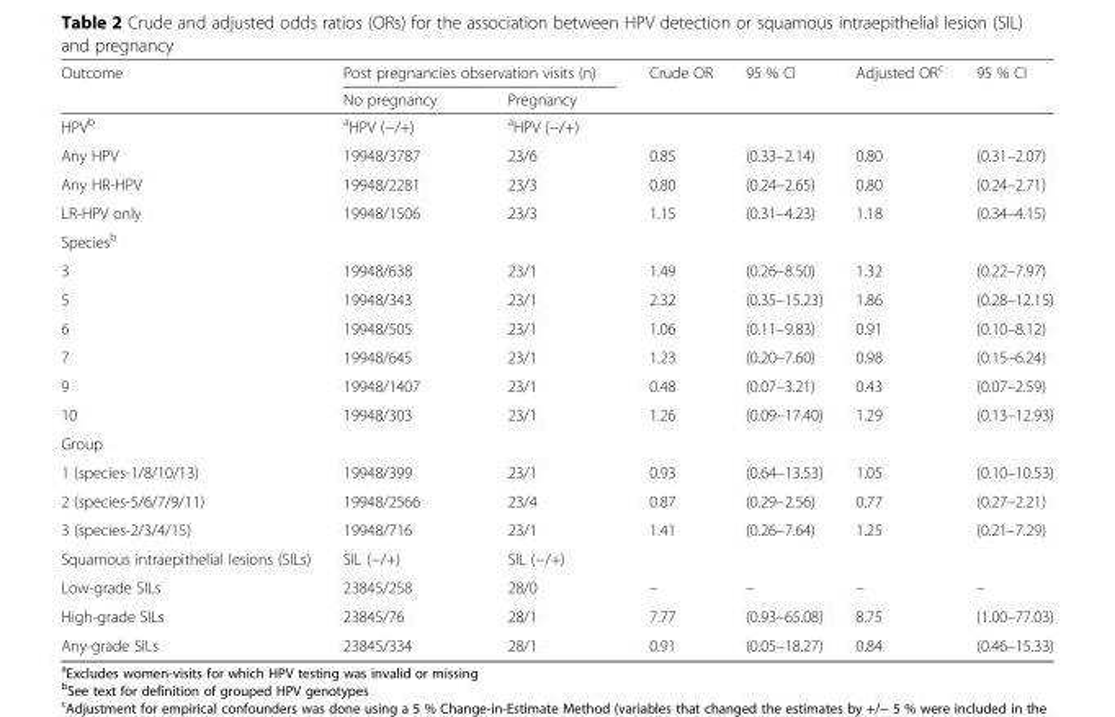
<table><thead><tr><td rowspan="2">Outcome</td><td colspan="2">Post pregnancies observation visits (n)</td><td rowspan="2">Crude OR</td><td rowspan="2">95 % CI</td><td rowspan="2">Adjusted OR<sup>c</sup></td><td rowspan="2">95 % CI</td></tr><tr><td>No pregnancy</td><td>Pregnancy</td></tr></thead><tbody><tr><td>HPV<sup>b</sup></td><td><sup>a</sup>HPV (−/+)</td><td><sup>a</sup>HPV (−/+)</td><td></td><td></td><td></td><td></td></tr><tr><td>Any HPV</td><td>19948/3787</td><td>23/6</td><td>0.85</td><td>(0.33–2.14)</td><td>0.80</td><td>(0.31–2.07)</td></tr><tr><td>Any HR-HPV</td><td>19948/2281</td><td>23/3</td><td>0.80</td><td>(0.24–2.65)</td><td>0.80</td><td>(0.24–2.71)</td></tr><tr><td>LR-HPV only</td><td>19948/1506</td><td>23/3</td><td>1.15</td><td>(0.31–4.23)</td><td>1.18</td><td>(0.34–4.15)</td></tr><tr><td colspan="7">Species<sup>b</sup></td></tr><tr><td>3</td><td>19948/638</td><td>23/1</td><td>1.49</td><td>(0.26–8.50)</td><td>1.32</td><td>(0.22–7.97)</td></tr><tr><td>5</td><td>19948/343</td><td>23/1</td><td>2.32</td><td>(0.35–15.23)</td><td>1.86</td><td>(0.28–12.15)</td></tr><tr><td>6</td><td>19948/505</td><td>23/1</td><td>1.06</td><td>(0.11–9.83)</td><td>0.91</td><td>(0.10–8.12)</td></tr><tr><td>7</td><td>19948/645</td><td>23/1</td><td>1.23</td><td>(0.20–7.60)</td><td>0.98</td><td>(0.15–6.24)</td></tr><tr><td>9</td><td>19948/1407</td><td>23/1</td><td>0.48</td><td>(0.07–3.21)</td><td>0.43</td><td>(0.07–2.59)</td></tr><tr><td>10</td><td>19948/303</td><td>23/1</td><td>1.26</td><td>(0.09–17.40)</td><td>1.29</td><td>(0.13–12.93)</td></tr><tr><td colspan="7">Group</td></tr><tr><td>1 (species-1/8/10/13)</td><td>19948/399</td><td>23/1</td><td>0.93</td><td>(0.64–13.53)</td><td>1.05</td><td>(0.10–10.53)</td></tr><tr><td>2 (species-5/6/7/9/11)</td><td>19948/2566</td><td>23/4</td><td>0.87</td><td>(0.29–2.56)</td><td>0.77</td><td>(0.27–2.21)</td></tr><tr><td>3 (species-2/3/4/15)</td><td>19948/716</td><td>23/1</td><td>1.41</td><td>(0.26–7.64)</td><td>1.25</td><td>(0.21–7.29)</td></tr><tr><td>Squamous intraepithelial lesions (SILs)</td><td>SIL (−/+)</td><td>SIL (−/+)</td><td></td><td></td><td></td><td></td></tr><tr><td>Low-grade SILs</td><td>23845/258</td><td>28/0</td><td>–</td><td>–</td><td>–</td><td>–</td></tr><tr><td>High-grade SILs</td><td>23845/76</td><td>28/1</td><td>7.77</td><td>(0.93–65.08)</td><td>8.75</td><td>(1.00–77.03)</td></tr><tr><td>Any-grade SILs</td><td>23845/334</td><td>28/1</td><td>0.91</td><td>(0.05–18.27)</td><td>0.84</td><td>(0.46–15.33)</td></tr></tbody></table>